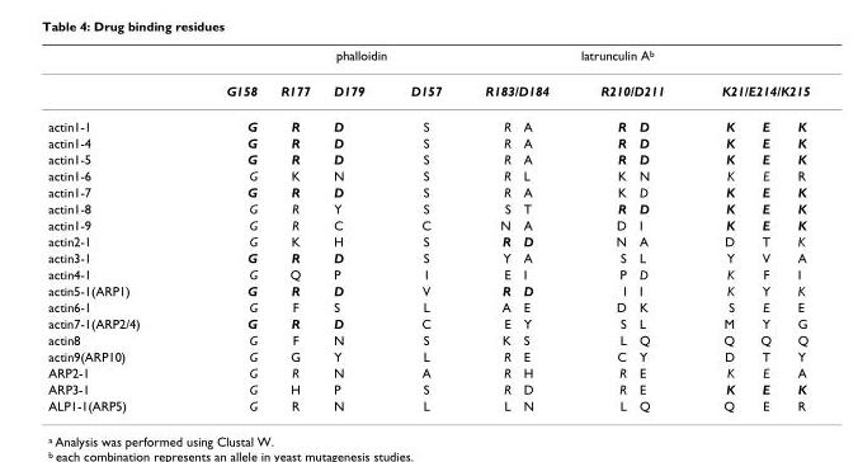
<table><thead><tr><td rowspan="3">actin1-1</td><td colspan="3">phalloidin</td><td colspan="8">latrunculin Ab</td></tr><tr><td rowspan="2">G158 G</td><td rowspan="2">R177 R</td><td rowspan="2">D179 D</td><td rowspan="2">D157 S</td><td colspan="2">R183/D184</td><td colspan="2">R210/D211</td><td colspan="3">K21/E214/K215</td></tr><tr><td>R</td><td>A</td><td>R</td><td>D</td><td>K</td><td>E</td><td>K</td></tr></thead><tbody><tr><td>actin1-4</td><td>G</td><td>R</td><td>D</td><td>S</td><td>R</td><td>A</td><td>R</td><td>D</td><td>K</td><td>E</td><td>K</td></tr><tr><td>actin1-5</td><td>G</td><td>R</td><td>D</td><td>S</td><td>R</td><td>A</td><td>R</td><td>D</td><td>K</td><td>E</td><td>K</td></tr><tr><td>actin1-6</td><td>G</td><td>K</td><td>N</td><td>S</td><td>R</td><td>L</td><td>K</td><td>N</td><td>K</td><td>E</td><td>R</td></tr><tr><td>actin1-7</td><td>G</td><td>R</td><td>D</td><td>S</td><td>R</td><td>A</td><td>K</td><td>D</td><td>K</td><td>E</td><td>K</td></tr><tr><td>actin1-8</td><td>G</td><td>R</td><td>Y</td><td>S</td><td>S</td><td>T</td><td>R</td><td>D</td><td>K</td><td>E</td><td>K</td></tr><tr><td>actin1-9</td><td>G</td><td>R</td><td>C</td><td>C</td><td>N</td><td>A</td><td>D</td><td>I</td><td>K</td><td>E</td><td>K</td></tr><tr><td>actin2-1</td><td>G</td><td>K</td><td>H</td><td>S</td><td>R</td><td>D</td><td>N</td><td>A</td><td>D</td><td>T</td><td>K</td></tr><tr><td>actin3-1</td><td>G</td><td>R</td><td>D</td><td>S</td><td>Y</td><td>A</td><td>S</td><td>L</td><td>Y</td><td>V</td><td>A</td></tr><tr><td>actin4-1</td><td>G</td><td>Q</td><td>P</td><td>I</td><td>E</td><td>I</td><td>P</td><td>D</td><td>K</td><td>F</td><td>I</td></tr><tr><td>actin5-1(ARP1)</td><td>G</td><td>R</td><td>D</td><td>V</td><td>R</td><td>D</td><td>I</td><td>I</td><td>K</td><td>Y</td><td>K</td></tr><tr><td>actin6-1</td><td>G</td><td>F</td><td>S</td><td>L</td><td>A</td><td>E</td><td>D</td><td>K</td><td>S</td><td>E</td><td>E</td></tr><tr><td>actin7-1(ARP2/4)</td><td>G</td><td>R</td><td>D</td><td>C</td><td>E</td><td>Y</td><td>S</td><td>L</td><td>M</td><td>Y</td><td>G</td></tr><tr><td>actin8</td><td>G</td><td>F</td><td>N</td><td>S</td><td>K</td><td>S</td><td>L</td><td>Q</td><td>Q</td><td>Q</td><td>Q</td></tr><tr><td>actin9(ARP10)</td><td>G</td><td>G</td><td>Y</td><td>L</td><td>R</td><td>E</td><td>C</td><td>Y</td><td>D</td><td>T</td><td>Y</td></tr><tr><td>ARP2-1</td><td>G</td><td>R</td><td>N</td><td>A</td><td>R</td><td>H</td><td>R</td><td>E</td><td>K</td><td>E</td><td>A</td></tr><tr><td>ARP3-1</td><td>G</td><td>H</td><td>P</td><td>S</td><td>R</td><td>D</td><td>R</td><td>E</td><td>K</td><td>E</td><td>K</td></tr><tr><td>ALP1-1(ARP5)</td><td>G</td><td>R</td><td>N</td><td>L</td><td>L</td><td>N</td><td>L</td><td>Q</td><td>Q</td><td>E</td><td>R</td></tr></tbody></table>